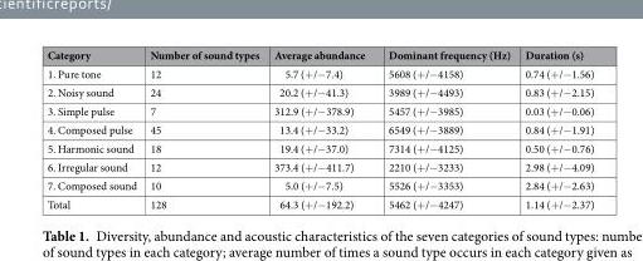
<table><thead><tr><td>Category</td><td>Number of sound types</td><td>Average abundance</td><td>Dominant frequency (Hz)</td><td>Duration (s)</td></tr></thead><tbody><tr><td>1. Pure tone</td><td>12</td><td>5.7 (+/−7.4)</td><td>5608 (+/−4158)</td><td>0.74 (+/−1.56)</td></tr><tr><td>2. Noisy sound</td><td>24</td><td>20.2 (+/−41.3)</td><td>3989 (+/−4493)</td><td>0.83 (+/−2.15)</td></tr><tr><td>3. Simple pulse</td><td>7</td><td>312.9 (+/−378.9)</td><td>5457 (+/−3985)</td><td>0.03 (+/−0.06)</td></tr><tr><td>4. Composed pulse</td><td>45</td><td>13.4 (+/−33.2)</td><td>6549 (+/−3889)</td><td>0.84 (+/−1.91)</td></tr><tr><td>5. Harmonic sound</td><td>18</td><td>19.4 (+/−37.0)</td><td>7314 (+/−4125)</td><td>0.50 (+/−0.76)</td></tr><tr><td>6. Irregular sound</td><td>12</td><td>373.4 (+/−411.7)</td><td>2210 (+/−3233)</td><td>2.98 (+/−4.09)</td></tr><tr><td>7. Composed sound</td><td>10</td><td>5.0 (+/−7.5)</td><td>5526 (+/−3353)</td><td>2.84 (+/−2.63)</td></tr><tr><td>Total</td><td>128</td><td>64.3 (+/−192.2)</td><td>5462 (+/−4247)</td><td>1.14 (+/−2.37)</td></tr></tbody></table>